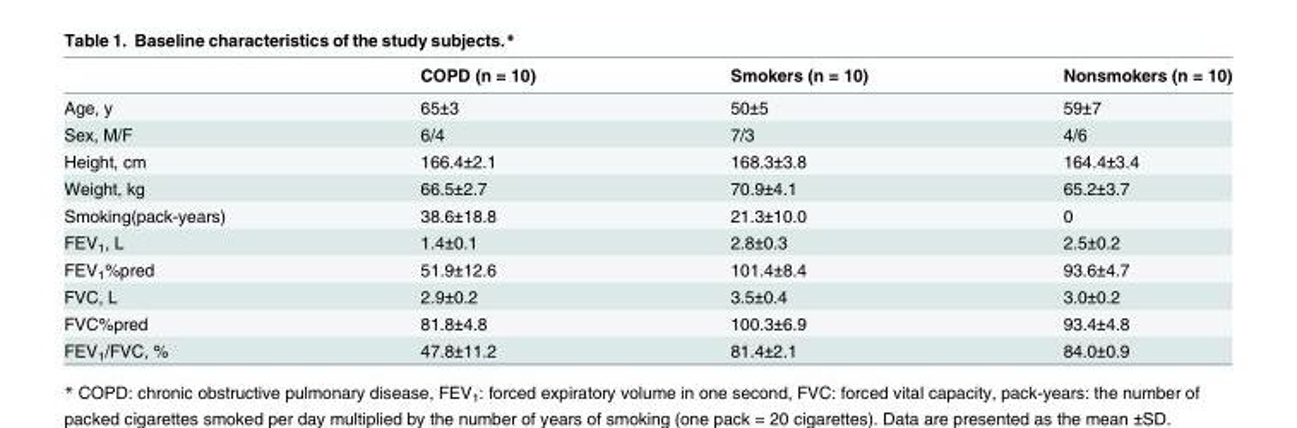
<table><thead><tr><td></td><td>COPD (n = 10)</td><td>Smokers (n = 10)</td><td>Nonsmokers (n = 10)</td></tr></thead><tbody><tr><td>Age, y</td><td>65±3</td><td>50±5</td><td>59±7</td></tr><tr><td>Sex, M/F</td><td>6/4</td><td>7/3</td><td>4/6</td></tr><tr><td>Height, cm</td><td>166.4±2.1</td><td>168.3±3.8</td><td>164.4±3.4</td></tr><tr><td>Weight, kg</td><td>66.5±2.7</td><td>70.9±4.1</td><td>65.2±3.7</td></tr><tr><td>Smoking(pack-years)</td><td>38.6±18.8</td><td>21.3±10.0</td><td>0</td></tr><tr><td>FEV<sub>1</sub>, L</td><td>1.4±0.1</td><td>2.8±0.3</td><td>2.5±0.2</td></tr><tr><td>FEV<sub>1</sub>%pred</td><td>51.9±12.6</td><td>101.4±8.4</td><td>93.6±4.7</td></tr><tr><td>FVC, L</td><td>2.9±0.2</td><td>3.5±0.4</td><td>3.0±0.2</td></tr><tr><td>FVC%pred</td><td>81.8±4.8</td><td>100.3±6.9</td><td>93.4±4.8</td></tr><tr><td>FEV<sub>1</sub>/FVC, %</td><td>47.8±11.2</td><td>81.4±2.1</td><td>84.0±0.9</td></tr></tbody></table>